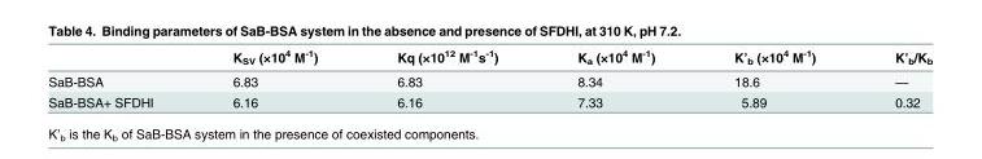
<table><thead><tr><td></td><td>K<sub>SV</sub> (×10<sup>4</sup> M<sup>-1</sup>)</td><td>Kq (×10<sup>12</sup> M<sup>-1</sup>s<sup>-1</sup>)</td><td>K<sub>a</sub> (×10<sup>4</sup> M<sup>-1</sup>)</td><td>K’<sub>b</sub> (×10<sup>4</sup> M<sup>-1</sup>)</td><td>K’<sub>b</sub>/K<sub>b</sub></td></tr></thead><tbody><tr><td>SaB-BSA</td><td>6.83</td><td>6.83</td><td>8.34</td><td>18.6</td><td>—</td></tr><tr><td>SaB-BSA+ SFDHI</td><td>6.16</td><td>6.16</td><td>7.33</td><td>5.89</td><td>0.32</td></tr></tbody></table>